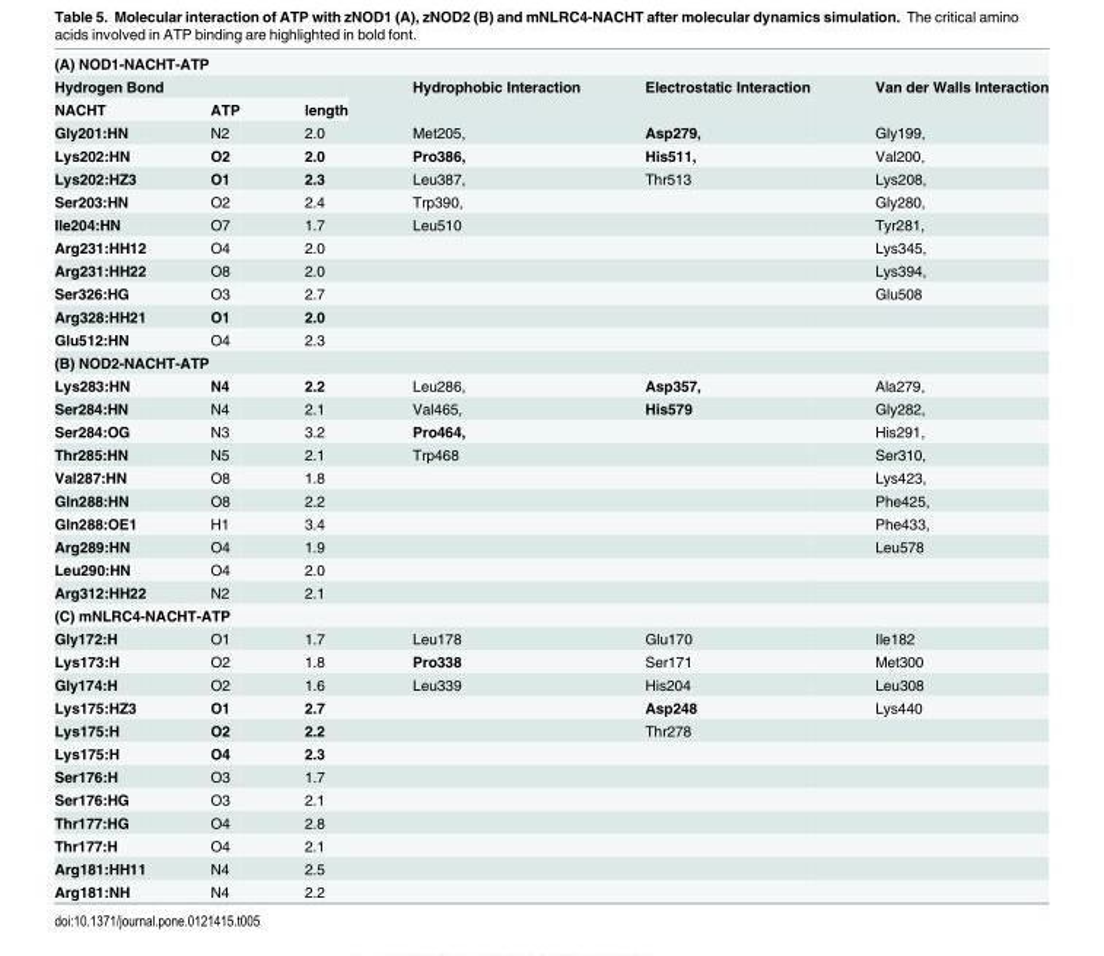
<table><tbody><tr><td colspan="6">(A) NOD1-NACHT-ATP</td></tr><tr><td colspan="3">Hydrogen Bond</td><td rowspan="2">Hydrophobic Interaction</td><td rowspan="2">Electrostatic Interaction</td><td rowspan="2">Van der Walls Interaction</td></tr><tr><td>NACHT</td><td>ATP</td><td>length</td></tr><tr><td>Gly201:HN</td><td>N2</td><td>2.0</td><td>Met205,</td><td>Asp279,</td><td>Gly199,</td></tr><tr><td>Lys202:HN</td><td>O2</td><td>2.0</td><td>Pro386,</td><td>His511,</td><td>Val200,</td></tr><tr><td>Lys202:HZ3</td><td>O1</td><td>2.3</td><td>Leu387,</td><td>Thr513</td><td>Lys208,</td></tr><tr><td>Ser203:HN</td><td>O2</td><td>2.4</td><td>Trp390,</td><td></td><td>Gly280,</td></tr><tr><td>Ile204:HN</td><td>O7</td><td>1.7</td><td>Leu510</td><td></td><td>Tyr281,</td></tr><tr><td>Arg231:HH12</td><td>O4</td><td>2.0</td><td></td><td></td><td>Lys345,</td></tr><tr><td>Arg231:HH22</td><td>O8</td><td>2.0</td><td></td><td></td><td>Lys394,</td></tr><tr><td>Ser326:HG</td><td>O3</td><td>2.7</td><td></td><td></td><td>Glu508</td></tr><tr><td>Arg328:HH21</td><td>O1</td><td>2.0</td><td></td><td></td><td></td></tr><tr><td>Glu512:HN</td><td>O4</td><td>2.3</td><td></td><td></td><td></td></tr><tr><td colspan="6">(B) NOD2-NACHT-ATP</td></tr><tr><td>Lys283:HN</td><td>N4</td><td>2.2</td><td>Leu286,</td><td>Asp357,</td><td>Ala279,</td></tr><tr><td>Ser284:HN</td><td>N4</td><td>2.1</td><td>Val465,</td><td>His579</td><td>Gly282,</td></tr><tr><td>Ser284:OG</td><td>N3</td><td>3.2</td><td>Pro464,</td><td></td><td>His291,</td></tr><tr><td>Thr285:HN</td><td>N5</td><td>2.1</td><td>Trp468</td><td></td><td>Ser310,</td></tr><tr><td>Val287:HN</td><td>O8</td><td>1.8</td><td></td><td></td><td>Lys423,</td></tr><tr><td>Gln288:HN</td><td>O8</td><td>2.2</td><td></td><td></td><td>Phe425,</td></tr><tr><td>Gln288:OE1</td><td>H1</td><td>3.4</td><td></td><td></td><td>Phe433,</td></tr><tr><td>Arg289:HN</td><td>O4</td><td>1.9</td><td></td><td></td><td>Leu578</td></tr><tr><td>Leu290:HN</td><td>O4</td><td>2.0</td><td></td><td></td><td></td></tr><tr><td>Arg312:HH22</td><td>N2</td><td>2.1</td><td></td><td></td><td></td></tr><tr><td colspan="6">(C) mNLRC4-NACHT-ATP</td></tr><tr><td>Gly172:H</td><td>O1</td><td>1.7</td><td>Leu178</td><td>Glu170</td><td>Ile182</td></tr><tr><td>Lys173:H</td><td>O2</td><td>1.8</td><td>Pro338</td><td>Ser171</td><td>Met300</td></tr><tr><td>Gly174:H</td><td>O2</td><td>1.6</td><td>Leu339</td><td>His204</td><td>Leu308</td></tr><tr><td>Lys175:HZ3</td><td>O1</td><td>2.7</td><td></td><td>Asp248</td><td>Lys440</td></tr><tr><td>Lys175:H</td><td>O2</td><td>2.2</td><td></td><td>Thr278</td><td></td></tr><tr><td>Lys175:H</td><td>O4</td><td>2.3</td><td></td><td></td><td></td></tr><tr><td>Ser176:H</td><td>O3</td><td>1.7</td><td></td><td></td><td></td></tr><tr><td>Ser176:HG</td><td>O3</td><td>2.1</td><td></td><td></td><td></td></tr><tr><td>Thr177:HG</td><td>O4</td><td>2.8</td><td></td><td></td><td></td></tr><tr><td>Thr177:H</td><td>O4</td><td>2.1</td><td></td><td></td><td></td></tr><tr><td>Arg181:HH11</td><td>N4</td><td>2.5</td><td></td><td></td><td></td></tr><tr><td>Arg181:NH</td><td>N4</td><td>2.2</td><td></td><td></td><td></td></tr></tbody></table>